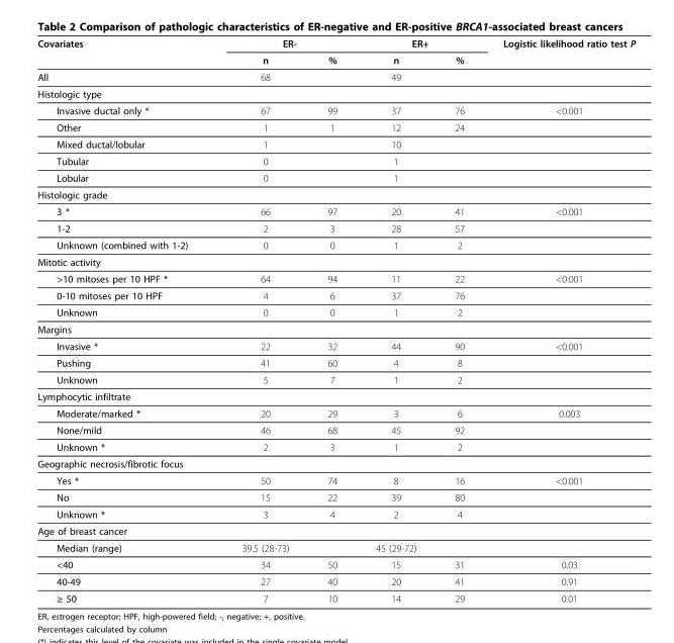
<table><thead><tr><td rowspan="2">Covariates</td><td colspan="2">ER-</td><td colspan="2">ER+</td><td rowspan="2">Logistic likelihood ratio test P</td></tr><tr><td>n</td><td>%</td><td>n</td><td>%</td></tr></thead><tbody><tr><td>All</td><td>68</td><td></td><td>49</td><td></td><td></td></tr><tr><td colspan="6">Histologic type</td></tr><tr><td>Invasive ductal only *</td><td>67</td><td>99</td><td>37</td><td>76</td><td>&lt;0.001</td></tr><tr><td>Other</td><td>1</td><td>1</td><td>12</td><td>24</td><td></td></tr><tr><td>Mixed ductal/lobular</td><td>1</td><td></td><td>10</td><td></td><td></td></tr><tr><td>Tubular</td><td>0</td><td></td><td>1</td><td></td><td></td></tr><tr><td>Lobular</td><td>0</td><td></td><td>1</td><td></td><td></td></tr><tr><td colspan="6">Histologic grade</td></tr><tr><td>3 *</td><td>66</td><td>97</td><td>20</td><td>41</td><td>&lt;0.001</td></tr><tr><td>1-2</td><td>2</td><td>3</td><td>28</td><td>57</td><td></td></tr><tr><td>Unknown (combined with 1-2)</td><td>0</td><td>0</td><td>1</td><td>2</td><td></td></tr><tr><td colspan="6">Mitotic activity</td></tr><tr><td>&gt;10 mitoses per 10 HPF *</td><td>64</td><td>94</td><td>11</td><td>22</td><td>&lt;0.001</td></tr><tr><td>0-10 mitoses per 10 HPF</td><td>4</td><td>6</td><td>37</td><td>76</td><td></td></tr><tr><td>Unknown</td><td>0</td><td>0</td><td>1</td><td>2</td><td></td></tr><tr><td colspan="6">Margins</td></tr><tr><td>Invasive *</td><td>22</td><td>32</td><td>44</td><td>90</td><td>&lt;0.001</td></tr><tr><td>Pushing</td><td>41</td><td>60</td><td>4</td><td>8</td><td></td></tr><tr><td>Unknown</td><td>5</td><td>7</td><td>1</td><td>2</td><td></td></tr><tr><td colspan="6">Lymphocytic infiltrate</td></tr><tr><td>Moderate/marked *</td><td>20</td><td>29</td><td>3</td><td>6</td><td>0.003</td></tr><tr><td>None/mild</td><td>46</td><td>68</td><td>45</td><td>92</td><td></td></tr><tr><td>Unknown *</td><td>2</td><td>3</td><td>1</td><td>2</td><td></td></tr><tr><td colspan="6">Geographic necrosis/fibrotic focus</td></tr><tr><td>Yes *</td><td>50</td><td>74</td><td>8</td><td>16</td><td>&lt;0.001</td></tr><tr><td>No</td><td>15</td><td>22</td><td>39</td><td>80</td><td></td></tr><tr><td>Unknown *</td><td>3</td><td>4</td><td>2</td><td>4</td><td></td></tr><tr><td colspan="6">Age of breast cancer</td></tr><tr><td>Median (range)</td><td>39.5 (28-73)</td><td></td><td>45 (29-72)</td><td></td><td></td></tr><tr><td>&lt;40</td><td>34</td><td>50</td><td>15</td><td>31</td><td>0.03</td></tr><tr><td>40-49</td><td>27</td><td>40</td><td>20</td><td>41</td><td>0.91</td></tr><tr><td>≥ 50</td><td>7</td><td>10</td><td>14</td><td>29</td><td>0.01</td></tr></tbody></table>